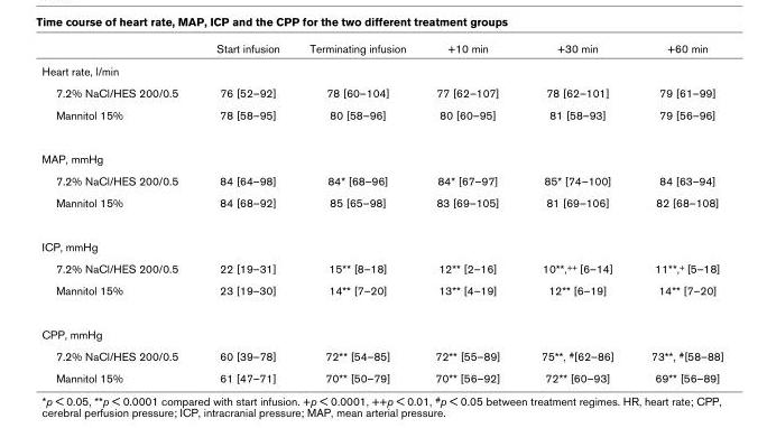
<table><thead><tr><td></td><td>Start infusion</td><td>Terminating infusion</td><td>+10 min</td><td>+30 min</td><td>+60 min</td></tr></thead><tbody><tr><td colspan="6">Heart rate, l/min</td></tr><tr><td>7.2% NaCl/HES 200/0.5</td><td>76 [52–92]</td><td>78 [60–104]</td><td>77 [62–107]</td><td>78 [62–101]</td><td>79 [61–99]</td></tr><tr><td>Mannitol 15%</td><td>78 [58–95]</td><td>80 [58–96]</td><td>80 [60–95]</td><td>81 [58–93]</td><td>79 [56–96]</td></tr><tr><td colspan="6">MAP, mmHg</td></tr><tr><td>7.2% NaCl/HES 200/0.5</td><td>84 [64–98]</td><td>84* [68–96]</td><td>84* [67–97]</td><td>85* [74–100]</td><td>84 [63–94]</td></tr><tr><td>Mannitol 15%</td><td>84 [68–92]</td><td>85 [65–98]</td><td>83 [69–105]</td><td>81 [69–106]</td><td>82 [68–108]</td></tr><tr><td colspan="6">ICP, mmHg</td></tr><tr><td>7.2% NaCl/HES 200/0.5</td><td>22 [19–31]</td><td>15** [8–18]</td><td>12** [2–16]</td><td>10**,++ [6–14]</td><td>11**,+ [5–18]</td></tr><tr><td>Mannitol 15%</td><td>23 [19–30]</td><td>14** [7–20]</td><td>13** [4–19]</td><td>12** [6–19]</td><td>14** [7–20]</td></tr><tr><td colspan="6">CPP, mmHg</td></tr><tr><td>7.2% NaCl/HES 200/0.5</td><td>60 [39–78]</td><td>72** [54–85]</td><td>72** [55–89]</td><td>75**, #[62–86]</td><td>73**, #[58–88]</td></tr><tr><td>Mannitol 15%</td><td>61 [47–71]</td><td>70** [50–79]</td><td>70** [56–92]</td><td>72** [60–93]</td><td>69** [56–89]</td></tr></tbody></table>